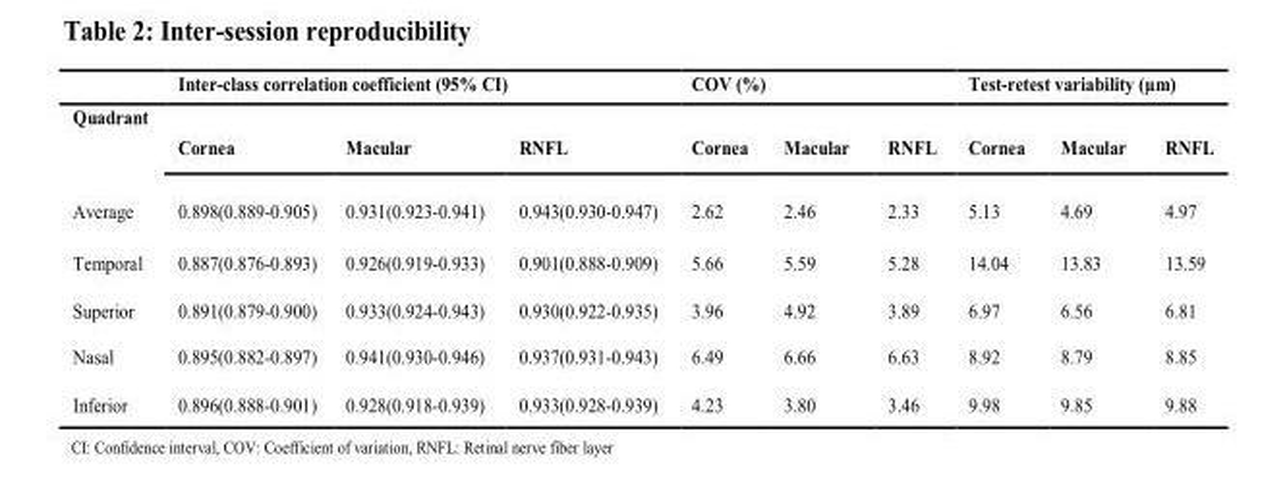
<table><thead><tr><td rowspan="2">Quadrant</td><td colspan="3">Inter-class correlation coefficient (95% CI)</td><td colspan="3">COV (%)</td><td colspan="3">Test-retest variability (µm)</td></tr><tr><td>Cornea</td><td>Macular</td><td>RNFL</td><td>Cornea</td><td>Macular</td><td>RNFL</td><td>Cornea</td><td>Macular</td><td>RNFL</td></tr></thead><tbody><tr><td>Average</td><td>0.898(0.889-0.905)</td><td>0.931(0.923-0.941)</td><td>0.943(0.930-0.947)</td><td>2.62</td><td>2.46</td><td>2.33</td><td>5.13</td><td>4.69</td><td>4.97</td></tr><tr><td>Temporal</td><td>0.887(0.876-0.893)</td><td>0.926(0.919-0.933)</td><td>0.901(0.888-0.909)</td><td>5.66</td><td>5.59</td><td>5.28</td><td>14.04</td><td>13.83</td><td>13.59</td></tr><tr><td>Superior</td><td>0.891(0.879-0.900)</td><td>0.933(0.924-0.943)</td><td>0.930(0.922-0.935)</td><td>3.96</td><td>4.92</td><td>3.89</td><td>6.97</td><td>6.56</td><td>6.81</td></tr><tr><td>Nasal</td><td>0.895(0.882-0.897)</td><td>0.941(0.930-0.946)</td><td>0.937(0.931-0.943)</td><td>6.49</td><td>6.66</td><td>6.63</td><td>8.92</td><td>8.79</td><td>8.85</td></tr><tr><td>Inferior</td><td>0.896(0.888-0.901)</td><td>0.928(0.918-0.939)</td><td>0.933(0.928-0.939)</td><td>4.23</td><td>3.80</td><td>3.46</td><td>9.98</td><td>9.85</td><td>9.88</td></tr></tbody></table>